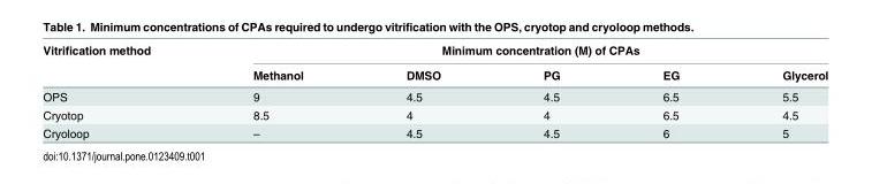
<table><thead><tr><td rowspan="2">Vitrification method</td><td colspan="5">Minimum concentration (M) of CPAs</td></tr><tr><td>Methanol</td><td>DMSO</td><td>PG</td><td>EG</td><td>Glycerol</td></tr></thead><tbody><tr><td>OPS</td><td>9</td><td>4.5</td><td>4.5</td><td>6.5</td><td>5.5</td></tr><tr><td>Cryotop</td><td>8.5</td><td>4</td><td>4</td><td>6.5</td><td>4.5</td></tr><tr><td>Cryoloop</td><td>–</td><td>4.5</td><td>4.5</td><td>6</td><td>5</td></tr></tbody></table>